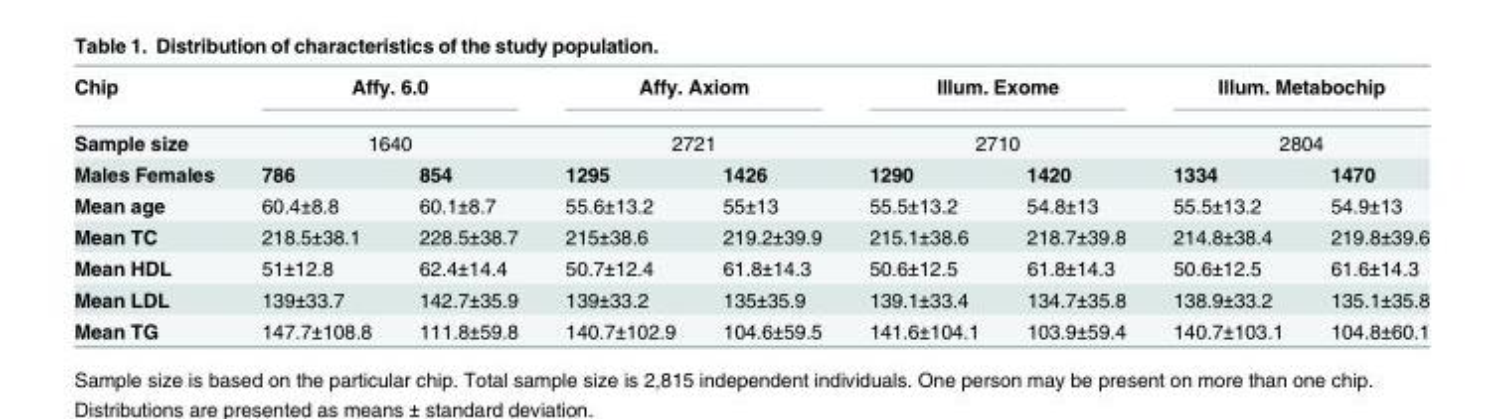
<table><thead><tr><td rowspan="3">Chip Sample size Males Females</td><td rowspan="2" colspan="2">Affy. 6.0 1640</td><td rowspan="2" colspan="2">Affy. Axiom 2721</td><td rowspan="2" colspan="2">Illum. Exome 2710</td><td rowspan="2" colspan="2">Illum. Metabochip 2804</td></tr><tr></tr><tr><td>786</td><td>854</td><td>1295</td><td>1426</td><td>1290</td><td>1420</td><td>1334</td><td>1470</td></tr></thead><tbody><tr><td>Mean age</td><td>60.4±8.8</td><td>60.1±8.7</td><td>55.6±13.2</td><td>55±13</td><td>55.5±13.2</td><td>54.8±13</td><td>55.5±13.2</td><td>54.9±13</td></tr><tr><td>Mean TC</td><td>218.5±38.1</td><td>228.5±38.7</td><td>215±38.6</td><td>219.2±39.9</td><td>215.1±38.6</td><td>218.7±39.8</td><td>214.8±38.4</td><td>219.8±39.6</td></tr><tr><td>Mean HDL</td><td>51±12.8</td><td>62.4±14.4</td><td>50.7±12.4</td><td>61.8±14.3</td><td>50.6±12.5</td><td>61.8±14.3</td><td>50.6±12.5</td><td>61.6±14.3</td></tr><tr><td>Mean LDL</td><td>139±33.7</td><td>142.7±35.9</td><td>139±33.2</td><td>135±35.9</td><td>139.1±33.4</td><td>134.7±35.8</td><td>138.9±33.2</td><td>135.1±35.8</td></tr><tr><td>Mean TG</td><td>147.7±108.8</td><td>111.8±59.8</td><td>140.7±102.9</td><td>104.6±59.5</td><td>141.6±104.1</td><td>103.9±59.4</td><td>140.7±103.1</td><td>104.8±60.1</td></tr></tbody></table>